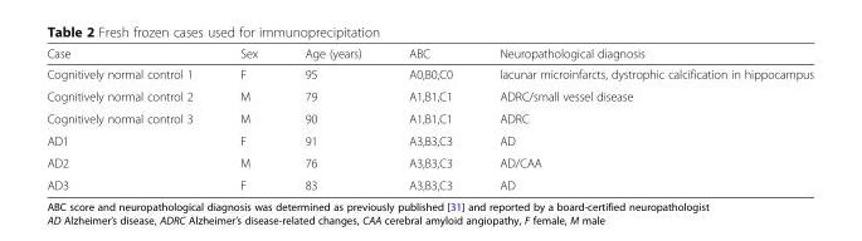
<table><thead><tr><td>Case</td><td>Sex</td><td>Age (years)</td><td>ABC</td><td>Neuropathological diagnosis</td></tr></thead><tbody><tr><td>Cognitively normal control 1</td><td>F</td><td>95</td><td>A0,B0,C0</td><td>lacunar microinfarcts, dystrophic calcification in hippocampus</td></tr><tr><td>Cognitively normal control 2</td><td>M</td><td>79</td><td>A1,B1,C1</td><td>ADRC/small vessel disease</td></tr><tr><td>Cognitively normal control 3</td><td>M</td><td>90</td><td>A1,B1,C1</td><td>ADRC</td></tr><tr><td>AD1</td><td>F</td><td>91</td><td>A3,B3,C3</td><td>AD</td></tr><tr><td>AD2</td><td>M</td><td>76</td><td>A3,B3,C3</td><td>AD/CAA</td></tr><tr><td>AD3</td><td>F</td><td>83</td><td>A3,B3,C3</td><td>AD</td></tr></tbody></table>